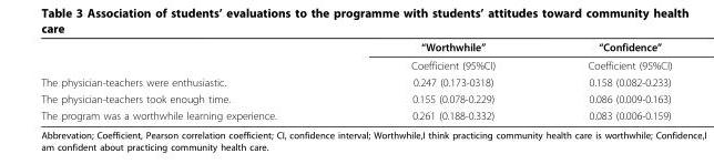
<table><thead><tr><td></td><td>“Worthwhile”</td><td>“Confidence”</td></tr></thead><tbody><tr><td></td><td>Coefficient (95%CI)</td><td>Coefficient (95%CI)</td></tr><tr><td>The physician-teachers were enthusiastic.</td><td>0.247 (0.173-0318)</td><td>0.158 (0.082-0.233)</td></tr><tr><td>The physician-teachers took enough time.</td><td>0.155 (0.078-0.229)</td><td>0.086 (0.009-0.163)</td></tr><tr><td>The program was a worthwhile learning experience.</td><td>0.261 (0.188-0.332)</td><td>0.083 (0.006-0.159)</td></tr></tbody></table>